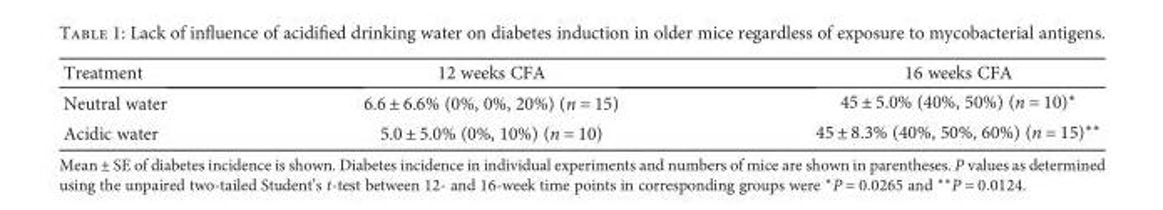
<table><thead><tr><td>Treatment</td><td>12 weeks CFA</td><td>16 weeks CFA</td></tr></thead><tbody><tr><td>Neutral water</td><td>6.6 ± 6.6% (0%, 0%, 20%) (n = 15)</td><td>45 ± 5.0% (40%, 50%) (n = 10)∗</td></tr><tr><td>Acidic water</td><td>5.0 ± 5.0% (0%, 10%) (n = 10)</td><td>45 ± 8.3% (40%, 50%, 60%) (n = 15)∗∗</td></tr></tbody></table>